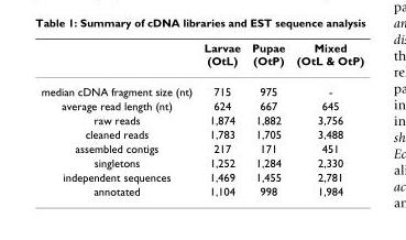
<table><thead><tr><td></td><td>Larvae (OtL)</td><td>Pupae (OtP)</td><td>Mixed (OtL &amp; OtP)</td></tr></thead><tbody><tr><td>median cDNA fragment size (nt)</td><td>715</td><td>975</td><td>-</td></tr><tr><td>average read length (nt)</td><td>624</td><td>667</td><td>645</td></tr><tr><td>raw reads</td><td>1,874</td><td>1,882</td><td>3,756</td></tr><tr><td>cleaned reads</td><td>1,783</td><td>1,705</td><td>3,488</td></tr><tr><td>assembled contigs</td><td>217</td><td>171</td><td>451</td></tr><tr><td>singletons</td><td>1,252</td><td>1,284</td><td>2,330</td></tr><tr><td>independent sequences</td><td>1,469</td><td>1,455</td><td>2,781</td></tr><tr><td>annotated</td><td>1,104</td><td>998</td><td>1,984</td></tr></tbody></table>